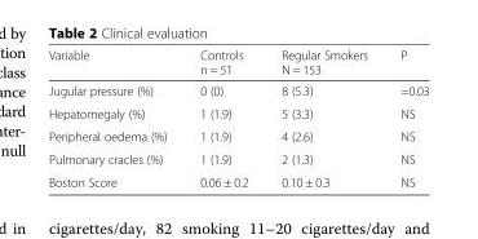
<table><thead><tr><td>Variable</td><td>Controls n = 51</td><td>Regular Smokers N = 153</td><td>P</td></tr></thead><tbody><tr><td>Jugular pressure (%)</td><td>0 (0)</td><td>8 (5.3)</td><td>=0.03</td></tr><tr><td>Hepatomegaly (%)</td><td>1 (1.9)</td><td>5 (3.3)</td><td>NS</td></tr><tr><td>Peripheral oedema (%)</td><td>1 (1.9)</td><td>4 (2.6)</td><td>NS</td></tr><tr><td>Pulmonary cracles (%)</td><td>1 (1.9)</td><td>2 (1.3)</td><td>NS</td></tr><tr><td>Boston Score</td><td>0.06 ± 0.2</td><td>0.10 ± 0.3</td><td>NS</td></tr></tbody></table>